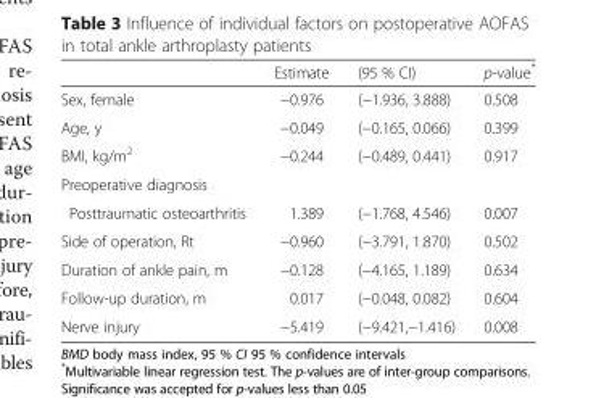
<table><thead><tr><td></td><td>Estimate</td><td>(95 % CI)</td><td>p-value*</td></tr></thead><tbody><tr><td>Sex, female</td><td>−0.976</td><td>(−1.936, 3.888)</td><td>0.508</td></tr><tr><td>Age, y</td><td>−0.049</td><td>(−0.165, 0.066)</td><td>0.399</td></tr><tr><td>BMI, kg/m<sup>2</sup></td><td>−0.244</td><td>(−0.489, 0.441)</td><td>0.917</td></tr><tr><td colspan="4">Preoperative diagnosis</td></tr><tr><td>Posttraumatic osteoarthritis</td><td>1.389</td><td>(−1.768, 4.546)</td><td>0.007</td></tr><tr><td>Side of operation, Rt</td><td>−0.960</td><td>(−3.791, 1.870)</td><td>0.502</td></tr><tr><td>Duration of ankle pain, m</td><td>−0.128</td><td>(−4.165, 1.189)</td><td>0.634</td></tr><tr><td>Follow-up duration, m</td><td>0.017</td><td>(−0.048, 0.082)</td><td>0.604</td></tr><tr><td>Nerve injury</td><td>−5.419</td><td>(−9.421,−1.416)</td><td>0.008</td></tr></tbody></table>